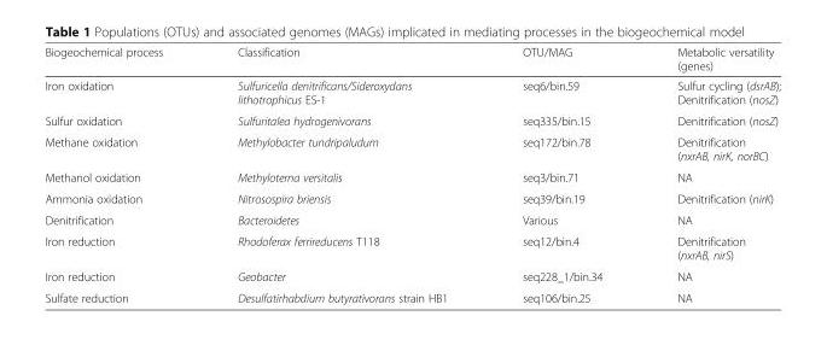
<table><thead><tr><td>Biogeochemical process</td><td>Classification</td><td>OTU/MAG</td><td>Metabolic versatility (genes)</td></tr></thead><tbody><tr><td>Iron oxidation</td><td>Sulfuricella denitrificans/Sideroxydans lithotrophicus ES-1</td><td>seq6/bin.59</td><td>Sulfur cycling (dsrAB); Denitrification (nosZ)</td></tr><tr><td>Sulfur oxidation</td><td>Sulfuritalea hydrogenivorans</td><td>seq335/bin.15</td><td>Denitrification (nosZ)</td></tr><tr><td>Methane oxidation</td><td>Methylobacter tundripaludum</td><td>seq172/bin.78</td><td>Denitrification (nxrAB, nirK, norBC)</td></tr><tr><td>Methanol oxidation</td><td>Methyloterna versitalis</td><td>seq3/bin.71</td><td>NA</td></tr><tr><td>Ammonia oxidation</td><td>Nitrosospira briensis</td><td>seq39/bin.19</td><td>Denitrification (nirK)</td></tr><tr><td>Denitrification</td><td>Bacteroidetes</td><td>Various</td><td>NA</td></tr><tr><td>Iron reduction</td><td>Rhodoferax ferrireducens T118</td><td>seq12/bin.4</td><td>Denitrification (nxrAB, nirS)</td></tr><tr><td>Iron reduction</td><td>Geobacter</td><td>seq228_1/bin.34</td><td>NA</td></tr><tr><td>Sulfate reduction</td><td>Desulfatirhabdium butyrativorans strain HB1</td><td>seq106/bin.25</td><td>NA</td></tr></tbody></table>